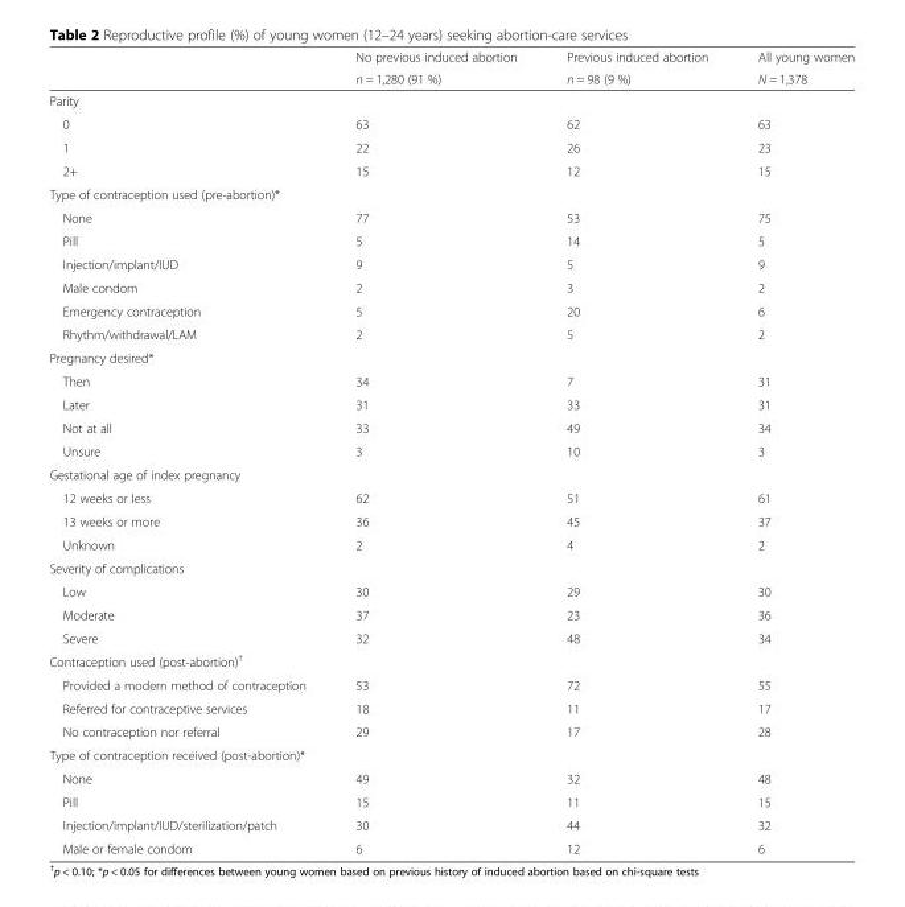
<table><thead><tr><td rowspan="2"></td><td rowspan="2">No previous induced abortion n = 1,280 (91 %)</td><td rowspan="2">Previous induced abortion n = 98 (9 %)</td><td rowspan="2">All young women N = 1,378</td></tr><tr></tr></thead><tbody><tr><td colspan="4">Parity</td></tr><tr><td>0</td><td>63</td><td>62</td><td>63</td></tr><tr><td>1</td><td>22</td><td>26</td><td>23</td></tr><tr><td>2+</td><td>15</td><td>12</td><td>15</td></tr><tr><td colspan="4">Type of contraception used (pre-abortion)*</td></tr><tr><td>None</td><td>77</td><td>53</td><td>75</td></tr><tr><td>Pill</td><td>5</td><td>14</td><td>5</td></tr><tr><td>Injection/implant/IUD</td><td>9</td><td>5</td><td>9</td></tr><tr><td>Male condom</td><td>2</td><td>3</td><td>2</td></tr><tr><td>Emergency contraception</td><td>5</td><td>20</td><td>6</td></tr><tr><td>Rhythm/withdrawal/LAM</td><td>2</td><td>5</td><td>2</td></tr><tr><td colspan="4">Pregnancy desired*</td></tr><tr><td>Then</td><td>34</td><td>7</td><td>31</td></tr><tr><td>Later</td><td>31</td><td>33</td><td>31</td></tr><tr><td>Not at all</td><td>33</td><td>49</td><td>34</td></tr><tr><td>Unsure</td><td>3</td><td>10</td><td>3</td></tr><tr><td colspan="4">Gestational age of index pregnancy</td></tr><tr><td>12 weeks or less</td><td>62</td><td>51</td><td>61</td></tr><tr><td>13 weeks or more</td><td>36</td><td>45</td><td>37</td></tr><tr><td>Unknown</td><td>2</td><td>4</td><td>2</td></tr><tr><td colspan="4">Severity of complications</td></tr><tr><td>Low</td><td>30</td><td>29</td><td>30</td></tr><tr><td>Moderate</td><td>37</td><td>23</td><td>36</td></tr><tr><td>Severe</td><td>32</td><td>48</td><td>34</td></tr><tr><td colspan="4">Contraception used (post-abortion)<sup>†</sup></td></tr><tr><td>Provided a modern method of contraception</td><td>53</td><td>72</td><td>55</td></tr><tr><td>Referred for contraceptive services</td><td>18</td><td>11</td><td>17</td></tr><tr><td>No contraception nor referral</td><td>29</td><td>17</td><td>28</td></tr><tr><td colspan="4">Type of contraception received (post-abortion)*</td></tr><tr><td>None</td><td>49</td><td>32</td><td>48</td></tr><tr><td>Pill</td><td>15</td><td>11</td><td>15</td></tr><tr><td>Injection/implant/IUD/sterilization/patch</td><td>30</td><td>44</td><td>32</td></tr><tr><td>Male or female condom</td><td>6</td><td>12</td><td>6</td></tr></tbody></table>